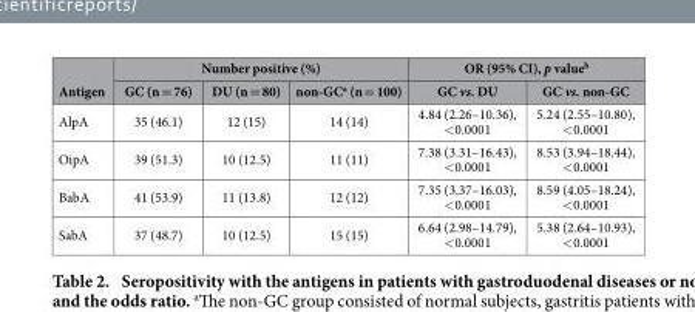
<table><thead><tr><td rowspan="2">Antigen</td><td colspan="3">Number positive (%)</td><td colspan="2">OR (95% CI), p value<sup>b</sup></td></tr><tr><td>GC (n = 76)</td><td>DU (n = 80)</td><td>non-GC<sup>a</sup> (n = 100)</td><td>GC vs. DU</td><td>GC vs. non-GC</td></tr></thead><tbody><tr><td>AlpA</td><td>35 (46.1)</td><td>12 (15)</td><td>14 (14)</td><td>4.84 (2.26–10.36), &lt; 0.0001</td><td>5.24 (2.55–10.80), &lt; 0.0001</td></tr><tr><td>OipA</td><td>39 (51.3)</td><td>10 (12.5)</td><td>11 (11)</td><td>7.38 (3.31–16.43), &lt; 0.0001</td><td>8.53 (3.94–18.44), &lt; 0.0001</td></tr><tr><td>BabA</td><td>41 (53.9)</td><td>11 (13.8)</td><td>12 (12)</td><td>7.35 (3.37–16.03), &lt; 0.0001</td><td>8.59 (4.05–18.24), &lt; 0.0001</td></tr><tr><td>SabA</td><td>37 (48.7)</td><td>10 (12.5)</td><td>15 (15)</td><td>6.64 (2.98–14.79), &lt; 0.0001</td><td>5.38 (2.64–10.93), &lt; 0.0001</td></tr></tbody></table>